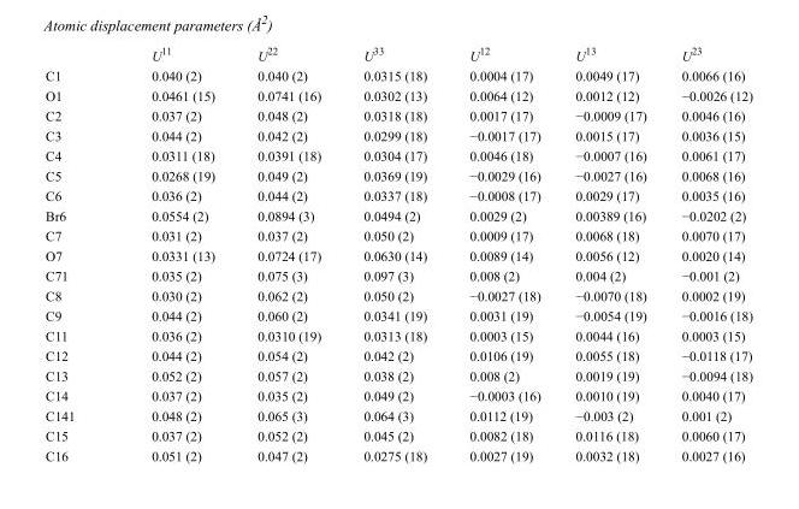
<table><thead><tr><td></td><td>U<sup>11</sup></td><td>U<sup>22</sup></td><td>U<sup>33</sup></td><td>U<sup>12</sup></td><td>U<sup>13</sup></td><td>U<sup>23</sup></td></tr></thead><tbody><tr><td>C1</td><td>0.040 (2)</td><td>0.040 (2)</td><td>0.0315 (18)</td><td>0.0004 (17)</td><td>0.0049 (17)</td><td>0.0066 (16)</td></tr><tr><td>O1</td><td>0.0461 (15)</td><td>0.0741 (16)</td><td>0.0302 (13)</td><td>0.0064 (12)</td><td>0.0012 (12)</td><td>−0.0026 (12)</td></tr><tr><td>C2</td><td>0.037 (2)</td><td>0.048 (2)</td><td>0.0318 (18)</td><td>0.0017 (17)</td><td>−0.0009 (17)</td><td>0.0046 (16)</td></tr><tr><td>C3</td><td>0.044 (2)</td><td>0.042 (2)</td><td>0.0299 (18)</td><td>−0.0017 (17)</td><td>0.0015 (17)</td><td>0.0036 (15)</td></tr><tr><td>C4</td><td>0.0311 (18)</td><td>0.0391 (18)</td><td>0.0304 (17)</td><td>0.0046 (18)</td><td>−0.0007 (16)</td><td>0.0061 (17)</td></tr><tr><td>C5</td><td>0.0268 (19)</td><td>0.049 (2)</td><td>0.0369 (19)</td><td>−0.0029 (16)</td><td>−0.0027 (16)</td><td>0.0068 (16)</td></tr><tr><td>C6</td><td>0.036 (2)</td><td>0.044 (2)</td><td>0.0337 (18)</td><td>−0.0008 (17)</td><td>0.0029 (17)</td><td>0.0035 (16)</td></tr><tr><td>Br6</td><td>0.0554 (2)</td><td>0.0894 (3)</td><td>0.0494 (2)</td><td>0.0029 (2)</td><td>0.00389 (16)</td><td>−0.0202 (2)</td></tr><tr><td>C7</td><td>0.031 (2)</td><td>0.037 (2)</td><td>0.050 (2)</td><td>0.0009 (17)</td><td>0.0068 (18)</td><td>0.0070 (17)</td></tr><tr><td>O7</td><td>0.0331 (13)</td><td>0.0724 (17)</td><td>0.0630 (14)</td><td>0.0089 (14)</td><td>0.0056 (12)</td><td>0.0020 (14)</td></tr><tr><td>C71</td><td>0.035 (2)</td><td>0.075 (3)</td><td>0.097 (3)</td><td>0.008 (2)</td><td>0.004 (2)</td><td>−0.001 (2)</td></tr><tr><td>C8</td><td>0.030 (2)</td><td>0.062 (2)</td><td>0.050 (2)</td><td>−0.0027 (18)</td><td>−0.0070 (18)</td><td>0.0002 (19)</td></tr><tr><td>C9</td><td>0.044 (2)</td><td>0.060 (2)</td><td>0.0341 (19)</td><td>0.0031 (19)</td><td>−0.0054 (19)</td><td>−0.0016 (18)</td></tr><tr><td>C11</td><td>0.036 (2)</td><td>0.0310 (19)</td><td>0.0313 (18)</td><td>0.0003 (15)</td><td>0.0044 (16)</td><td>0.0003 (15)</td></tr><tr><td>C12</td><td>0.044 (2)</td><td>0.054 (2)</td><td>0.042 (2)</td><td>0.0106 (19)</td><td>0.0055 (18)</td><td>−0.0118 (17)</td></tr><tr><td>C13</td><td>0.052 (2)</td><td>0.057 (2)</td><td>0.038 (2)</td><td>0.008 (2)</td><td>0.0019 (19)</td><td>−0.0094 (18)</td></tr><tr><td>C14</td><td>0.037 (2)</td><td>0.035 (2)</td><td>0.049 (2)</td><td>−0.0003 (16)</td><td>0.0010 (19)</td><td>0.0040 (17)</td></tr><tr><td>C141</td><td>0.048 (2)</td><td>0.065 (3)</td><td>0.064 (3)</td><td>0.0112 (19)</td><td>−0.003 (2)</td><td>0.001 (2)</td></tr><tr><td>C15</td><td>0.037 (2)</td><td>0.052 (2)</td><td>0.045 (2)</td><td>0.0082 (18)</td><td>0.0116 (18)</td><td>0.0060 (17)</td></tr><tr><td>C16</td><td>0.051 (2)</td><td>0.047 (2)</td><td>0.0275 (18)</td><td>0.0027 (19)</td><td>0.0032 (18)</td><td>0.0027 (16)</td></tr></tbody></table>